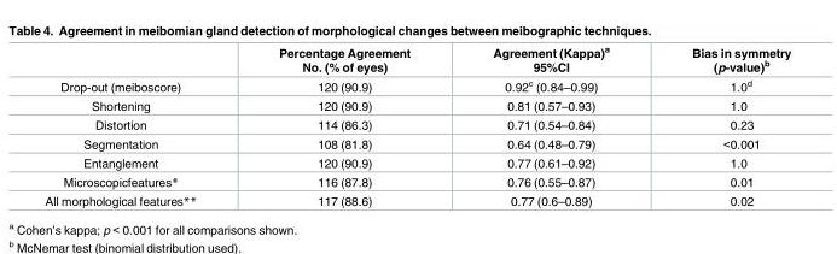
<table><thead><tr><td></td><td>Percentage Agreement No. (% of eyes)</td><td>Agreement (Kappa)<sup>a</sup> 95%CI</td><td>Bias in symmetry (p-value)<sup>b</sup></td></tr></thead><tbody><tr><td>Drop-out (meiboscore)</td><td>120 (90.9)</td><td>0.92<sup>c</sup> (0.84–0.99)</td><td>1.0<sup>d</sup></td></tr><tr><td>Shortening</td><td>120 (90.9)</td><td>0.81 (0.57–0.93)</td><td>1.0</td></tr><tr><td>Distortion</td><td>114 (86.3)</td><td>0.71 (0.54–0.84)</td><td>0.23</td></tr><tr><td>Segmentation</td><td>108 (81.8)</td><td>0.64 (0.48–0.79)</td><td>&lt;0.001</td></tr><tr><td>Entanglement</td><td>120 (90.9)</td><td>0.77 (0.61–0.92)</td><td>1.0</td></tr><tr><td>Microscopicfeatures*</td><td>116 (87.8)</td><td>0.76 (0.55–0.87)</td><td>0.01</td></tr><tr><td>All morphological features**</td><td>117 (88.6)</td><td>0.77 (0.6–0.89)</td><td>0.02</td></tr></tbody></table>